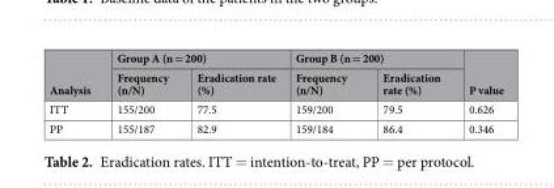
<table><thead><tr><td rowspan="2">Analysis</td><td colspan="2">Group A (n = 200)</td><td colspan="2">Group B (n = 200)</td><td rowspan="2">P value</td></tr><tr><td>Frequency (n/N)</td><td>Eradication rate (%)</td><td>Frequency (n/N)</td><td>Eradication rate (%)</td></tr></thead><tbody><tr><td>ITT</td><td>155/200</td><td>77.5</td><td>159/200</td><td>79.5</td><td>0.626</td></tr><tr><td>PP</td><td>155/187</td><td>82.9</td><td>159/184</td><td>86.4</td><td>0.346</td></tr></tbody></table>